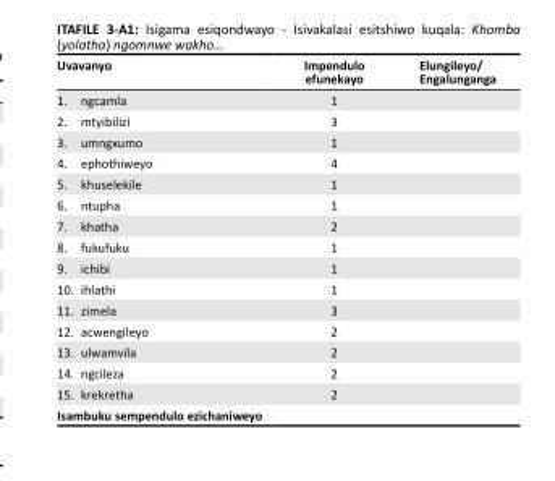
<table><thead><tr><td>Uvavanyo</td><td>Impendulo efunekayo</td><td>Elungileyo/ Engalunganga</td></tr></thead><tbody><tr><td>1. ngcamla</td><td>1</td><td></td></tr><tr><td>2. mtyibilizi</td><td>3</td><td></td></tr><tr><td>3. umngxumo</td><td>1</td><td></td></tr><tr><td>4. ephothiweyo</td><td>4</td><td></td></tr><tr><td>5. khuselekile</td><td>1</td><td></td></tr><tr><td>6. ntupha</td><td>1</td><td></td></tr><tr><td>7. khatha</td><td>2</td><td></td></tr><tr><td>8. fukufuku</td><td>1</td><td></td></tr><tr><td>9. ichibi</td><td>1</td><td></td></tr><tr><td>10. ihlathi</td><td>1</td><td></td></tr><tr><td>11. zimela</td><td>3</td><td></td></tr><tr><td>12. acwengileyo</td><td>2</td><td></td></tr><tr><td>13. ulwamvila</td><td>2</td><td></td></tr><tr><td>14. ngcileza</td><td>2</td><td></td></tr><tr><td>15. krekretha</td><td>2</td><td></td></tr><tr><td>Isambuku sempendulo ezichaniweyo</td><td></td><td></td></tr></tbody></table>